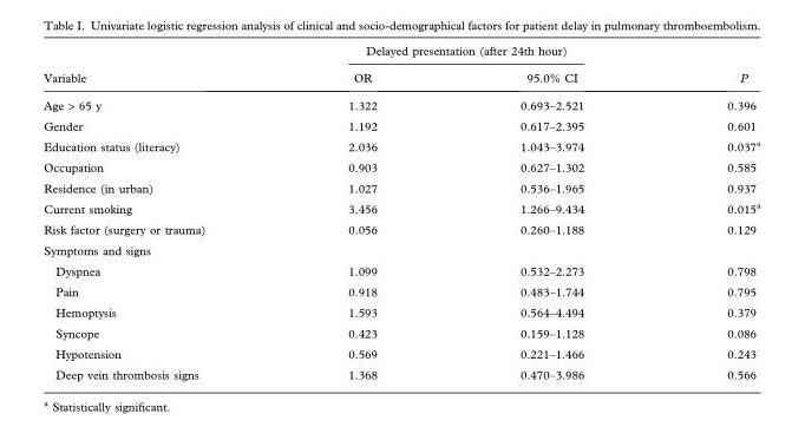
<table><thead><tr><td rowspan="2">Variable</td><td colspan="2">Delayed presentation (after 24th hour)</td><td rowspan="2">P</td></tr><tr><td>OR</td><td>95.0% CI</td></tr></thead><tbody><tr><td>Age &gt; 65 y</td><td>1.322</td><td>0.693–2.521</td><td>0.396</td></tr><tr><td>Gender</td><td>1.192</td><td>0.617–2.395</td><td>0.601</td></tr><tr><td>Education status (literacy)</td><td>2.036</td><td>1.043–3.974</td><td>0.037<sup>a</sup></td></tr><tr><td>Occupation</td><td>0.903</td><td>0.627–1.302</td><td>0.585</td></tr><tr><td>Residence (in urban)</td><td>1.027</td><td>0.536–1.965</td><td>0.937</td></tr><tr><td>Current smoking</td><td>3.456</td><td>1.266–9.434</td><td>0.015<sup>a</sup></td></tr><tr><td>Risk factor (surgery or trauma)</td><td>0.056</td><td>0.260–1.188</td><td>0.129</td></tr><tr><td colspan="4">Symptoms and signs</td></tr><tr><td>Dyspnea</td><td>1.099</td><td>0.532–2.273</td><td>0.798</td></tr><tr><td>Pain</td><td>0.918</td><td>0.483–1.744</td><td>0.795</td></tr><tr><td>Hemoptysis</td><td>1.593</td><td>0.564–4.494</td><td>0.379</td></tr><tr><td>Syncope</td><td>0.423</td><td>0.159–1.128</td><td>0.086</td></tr><tr><td>Hypotension</td><td>0.569</td><td>0.221–1.466</td><td>0.243</td></tr><tr><td>Deep vein thrombosis signs</td><td>1.368</td><td>0.470–3.986</td><td>0.566</td></tr></tbody></table>